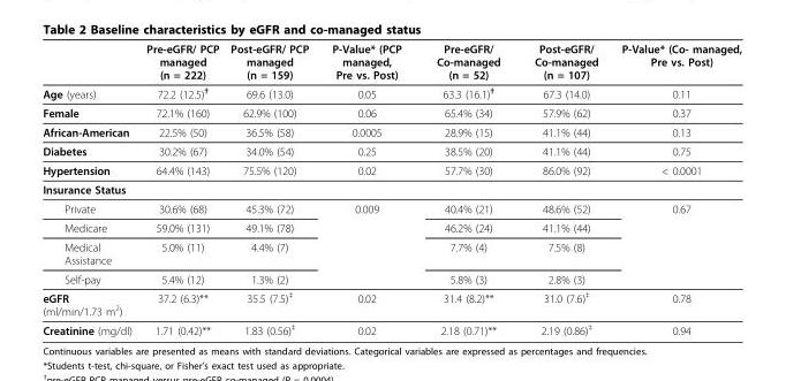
<table><thead><tr><td></td><td>Pre-eGFR/ PCP managed (n = 222)</td><td>Post-eGFR/ PCP managed (n = 159)</td><td>P-Value* (PCP managed, Pre vs. Post)</td><td>Pre-eGFR/ Co-managed (n = 52)</td><td>Post-eGFR/ Co-managed (n = 107)</td><td>P-Value* (Co- managed, Pre vs. Post)</td></tr></thead><tbody><tr><td>Age (years)</td><td>72.2 (12.5)<sup>†</sup></td><td>69.6 (13.0)</td><td>0.05</td><td>63.3 (16.1)<sup>†</sup></td><td>67.3 (14.0)</td><td>0.11</td></tr><tr><td>Female</td><td>72.1% (160)</td><td>62.9% (100)</td><td>0.06</td><td>65.4% (34)</td><td>57.9% (62)</td><td>0.37</td></tr><tr><td>African-American</td><td>22.5% (50)</td><td>36.5% (58)</td><td>0.0005</td><td>28.9% (15)</td><td>41.1% (44)</td><td>0.13</td></tr><tr><td>Diabetes</td><td>30.2% (67)</td><td>34.0% (54)</td><td>0.25</td><td>38.5% (20)</td><td>41.1% (44)</td><td>0.75</td></tr><tr><td>Hypertension</td><td>64.4% (143)</td><td>75.5% (120)</td><td>0.02</td><td>57.7% (30)</td><td>86.0% (92)</td><td>&lt; 0.0001</td></tr><tr><td colspan="7">Insurance Status</td></tr><tr><td>Private</td><td>30.6% (68)</td><td>45.3% (72)</td><td>0.009</td><td>40.4% (21)</td><td>48.6% (52)</td><td>0.67</td></tr><tr><td>Medicare</td><td>59.0% (131)</td><td>49.1% (78)</td><td></td><td>46.2% (24)</td><td>41.1% (44)</td><td></td></tr><tr><td>Medical Assistance</td><td>5.0% (11)</td><td>4.4% (7)</td><td></td><td>7.7% (4)</td><td>7.5% (8)</td><td></td></tr><tr><td>Self-pay</td><td>5.4% (12)</td><td>1.3% (2)</td><td></td><td>5.8% (3)</td><td>2.8% (3)</td><td></td></tr><tr><td>eGFR (ml/min/1.73 m<sup>2</sup>)</td><td>37.2 (6.3)**</td><td>35.5 (7.5)<sup>‡</sup></td><td>0.02</td><td>31.4 (8.2)**</td><td>31.0 (7.6)<sup>‡</sup></td><td>0.78</td></tr><tr><td>Creatinine (mg/dl)</td><td>1.71 (0.42)**</td><td>1.83 (0.56)<sup>‡</sup></td><td>0.02</td><td>2.18 (0.71)**</td><td>2.19 (0.86)<sup>‡</sup></td><td>0.94</td></tr></tbody></table>